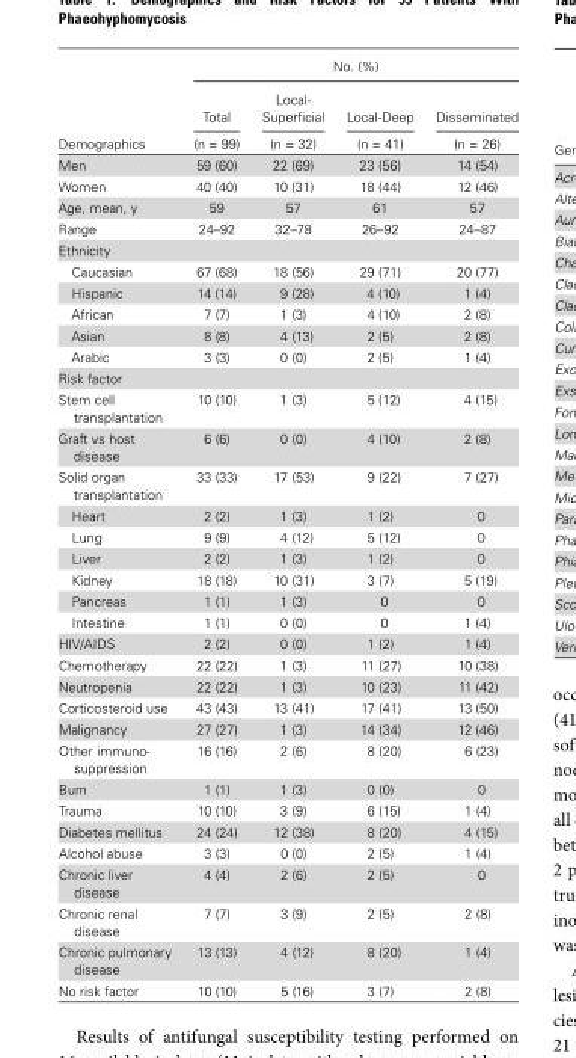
<table><thead><tr><td rowspan="2"></td><td colspan="4">No. (%)</td></tr><tr><td>Total</td><td>Local- Superficial</td><td>Local-Deep</td><td>Disseminated</td></tr></thead><tbody><tr><td>Demographics</td><td>(n = 99)</td><td>(n = 32)</td><td>(n = 41)</td><td>(n = 26)</td></tr><tr><td>Men</td><td>59 (60)</td><td>22 (69)</td><td>23 (56)</td><td>14 (54)</td></tr><tr><td>Women</td><td>40 (40)</td><td>10 (31)</td><td>18 (44)</td><td>12 (46)</td></tr><tr><td>Age, mean, y</td><td>59</td><td>57</td><td>61</td><td>57</td></tr><tr><td>Range</td><td>24–92</td><td>32–78</td><td>26–92</td><td>24–87</td></tr><tr><td colspan="5">Ethnicity</td></tr><tr><td>Caucasian</td><td>67 (68)</td><td>18 (56)</td><td>29 (71)</td><td>20 (77)</td></tr><tr><td>Hispanic</td><td>14 (14)</td><td>9 (28)</td><td>4 (10)</td><td>1 (4)</td></tr><tr><td>African</td><td>7 (7)</td><td>1 (3)</td><td>4 (10)</td><td>2 (8)</td></tr><tr><td>Asian</td><td>8 (8)</td><td>4 (13)</td><td>2 (5)</td><td>2 (8)</td></tr><tr><td>Arabic</td><td>3 (3)</td><td>0 (0)</td><td>2 (5)</td><td>1 (4)</td></tr><tr><td colspan="5">Risk factor</td></tr><tr><td>Stem cell transplantation</td><td>10 (10)</td><td>1 (3)</td><td>5 (12)</td><td>4 (15)</td></tr><tr><td>Graft vs host disease</td><td>6 (6)</td><td>0 (0)</td><td>4 (10)</td><td>2 (8)</td></tr><tr><td>Solid organ transplantation</td><td>33 (33)</td><td>17 (53)</td><td>9 (22)</td><td>7 (27)</td></tr><tr><td>Heart</td><td>2 (2)</td><td>1 (3)</td><td>1 (2)</td><td>0</td></tr><tr><td>Lung</td><td>9 (9)</td><td>4 (12)</td><td>5 (12)</td><td>0</td></tr><tr><td>Liver</td><td>2 (2)</td><td>1 (3)</td><td>1 (2)</td><td>0</td></tr><tr><td>Kidney</td><td>18 (18)</td><td>10 (31)</td><td>3 (7)</td><td>5 (19)</td></tr><tr><td>Pancreas</td><td>1 (1)</td><td>1 (3)</td><td>0</td><td>0</td></tr><tr><td>Intestine</td><td>1 (1)</td><td>0 (0)</td><td>0</td><td>1 (4)</td></tr><tr><td>HIV/AIDS</td><td>2 (2)</td><td>0 (0)</td><td>1 (2)</td><td>1 (4)</td></tr><tr><td>Chemotherapy</td><td>22 (22)</td><td>1 (3)</td><td>11 (27)</td><td>10 (38)</td></tr><tr><td>Neutropenia</td><td>22 (22)</td><td>1 (3)</td><td>10 (23)</td><td>11 (42)</td></tr><tr><td>Corticosteroid use</td><td>43 (43)</td><td>13 (41)</td><td>17 (41)</td><td>13 (50)</td></tr><tr><td>Malignancy</td><td>27 (27)</td><td>1 (3)</td><td>14 (34)</td><td>12 (46)</td></tr><tr><td>Other immuno- suppression</td><td>16 (16)</td><td>2 (6)</td><td>8 (20)</td><td>6 (23)</td></tr><tr><td>Burn</td><td>1 (1)</td><td>1 (3)</td><td>0 (0)</td><td>0</td></tr><tr><td>Trauma</td><td>10 (10)</td><td>3 (9)</td><td>6 (15)</td><td>1 (4)</td></tr><tr><td>Diabetes mellitus</td><td>24 (24)</td><td>12 (38)</td><td>8 (20)</td><td>4 (15)</td></tr><tr><td>Alcohol abuse</td><td>3 (3)</td><td>0 (0)</td><td>2 (5)</td><td>1 (4)</td></tr><tr><td>Chronic liver disease</td><td>4 (4)</td><td>2 (6)</td><td>2 (5)</td><td>0</td></tr><tr><td>Chronic renal disease</td><td>7 (7)</td><td>3 (9)</td><td>2 (5)</td><td>2 (8)</td></tr><tr><td>Chronic pulmonary disease</td><td>13 (13)</td><td>4 (12)</td><td>8 (20)</td><td>1 (4)</td></tr><tr><td>No risk factor</td><td>10 (10)</td><td>5 (16)</td><td>3 (7)</td><td>2 (8)</td></tr></tbody></table>